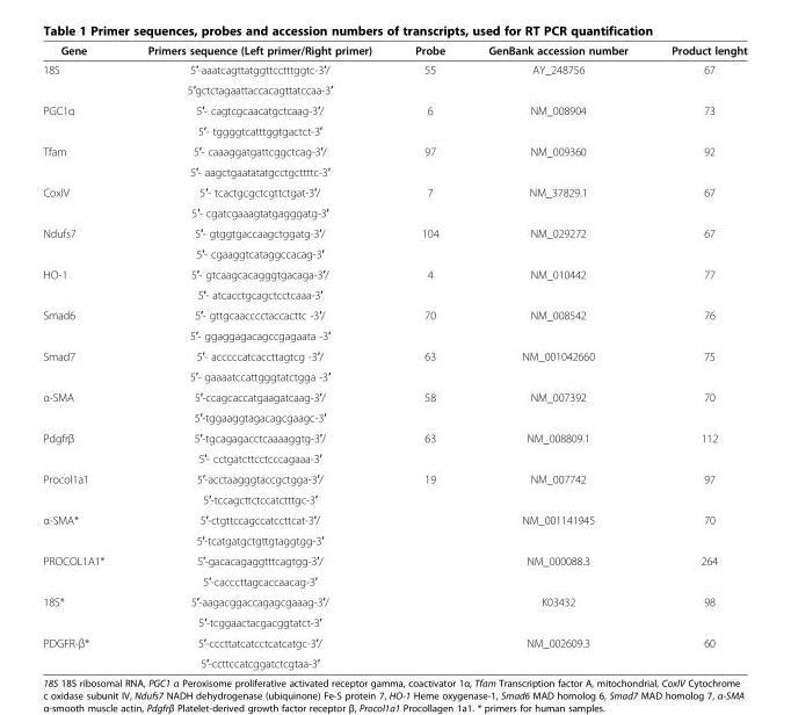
<table><thead><tr><td>Gene</td><td>Primers sequence (Left primer/Right primer)</td><td>Probe</td><td>GenBank accession number</td><td>Product lenght</td></tr></thead><tbody><tr><td rowspan="2">18S</td><td>5′-aaatcagttatggttcctttggtc-3′/</td><td>55</td><td>AY_248756</td><td>67</td></tr><tr><td>5′gctctagaattaccacagttatccaa-3′</td><td></td><td></td><td></td></tr><tr><td rowspan="2">PGC1α</td><td>5′- cagtcgcaacatgctcaag-3′/</td><td>6</td><td>NM_008904</td><td>73</td></tr><tr><td>5′- tggggtcatttggtgactct-3′</td><td></td><td></td><td></td></tr><tr><td rowspan="2">Tfam</td><td>5′- caaaggatgattcggctcag-3′/</td><td>97</td><td>NM_009360</td><td>92</td></tr><tr><td>5′- aagctgaatatatgcctgcttttc-3′</td><td></td><td></td><td></td></tr><tr><td rowspan="2">CoxIV</td><td>5′- tcactgcgctcgttctgat-3′/</td><td>7</td><td>NM_37829.1</td><td>67</td></tr><tr><td>5′- cgatcgaaagtatgagggatg-3′</td><td></td><td></td><td></td></tr><tr><td rowspan="2">Ndufs7</td><td>5′- gtggtgaccaagctggatg-3′/</td><td>104</td><td>NM_029272</td><td>67</td></tr><tr><td>5′- cgaaggtcataggccacag-3′</td><td></td><td></td><td></td></tr><tr><td rowspan="2">HO-1</td><td>5′- gtcaagcacagggtgacaga-3′/</td><td>4</td><td>NM_010442</td><td>77</td></tr><tr><td>5′- atcacctgcagctcctcaaa-3′</td><td></td><td></td><td></td></tr><tr><td rowspan="2">Smad6</td><td>5′- gttgcaacccctaccacttc -3′/</td><td>70</td><td>NM_008542</td><td>76</td></tr><tr><td>5′- ggaggagacagccgagaata -3′</td><td></td><td></td><td></td></tr><tr><td rowspan="2">Smad7</td><td>5′- acccccatcaccttagtcg -3′/</td><td>63</td><td>NM_001042660</td><td>75</td></tr><tr><td>5′- gaaaatccattgggtatctgga -3′</td><td></td><td></td><td></td></tr><tr><td rowspan="2">α-SMA</td><td>5′-ccagcaccatgaagatcaag-3′/</td><td>58</td><td>NM_007392</td><td>70</td></tr><tr><td>5′-tggaaggtagacagcgaagc-3′</td><td></td><td></td><td></td></tr><tr><td rowspan="2">Pdgfrβ</td><td>5′-tgcagagacctcaaaaggtg-3′/</td><td>63</td><td>NM_008809.1</td><td>112</td></tr><tr><td>5′- cctgatcttcctcccagaaa-3′</td><td></td><td></td><td></td></tr><tr><td rowspan="2">Procol1a1</td><td>5′-acctaagggtaccgctgga-3′/</td><td>19</td><td>NM_007742</td><td>97</td></tr><tr><td>5′-tccagcttctccatctttgc-3′</td><td></td><td></td><td></td></tr><tr><td rowspan="2">α-SMA*</td><td>5′-ctgttccagccatccttcat-3′/</td><td></td><td>NM_001141945</td><td>70</td></tr><tr><td>5′-tcatgatgctgttgtaggtgg-3′</td><td></td><td></td><td></td></tr><tr><td rowspan="2">PROCOL1A1*</td><td>5′-gacacagaggtttcagtgg-3′/</td><td></td><td>NM_000088.3</td><td>264</td></tr><tr><td>5′-cacccttagcaccaacag-3′</td><td></td><td></td><td></td></tr><tr><td rowspan="2">18S*</td><td>5′-aagacggaccagagcgaaag-3′/</td><td></td><td>K03432</td><td>98</td></tr><tr><td>5′-tcggaactacgacggtatct-3′</td><td></td><td></td><td></td></tr><tr><td rowspan="2">PDGFR-β*</td><td>5′-cccttatcatcctcatcatgc-3′/</td><td></td><td>NM_002609.3</td><td>60</td></tr><tr><td>5′-ccttccatcggatctcgtaa-3′</td><td></td><td></td><td></td></tr></tbody></table>